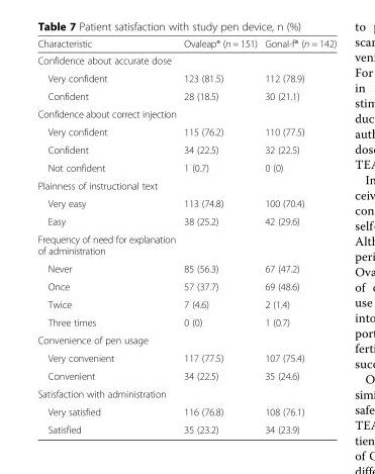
<table><thead><tr><td>Characteristic</td><td>Ovaleap® (n = 151)</td><td>Gonal-f® (n = 142)</td></tr></thead><tbody><tr><td colspan="3">Confidence about accurate dose</td></tr><tr><td>Very confident</td><td>123 (81.5)</td><td>112 (78.9)</td></tr><tr><td>Confident</td><td>28 (18.5)</td><td>30 (21.1)</td></tr><tr><td colspan="3">Confidence about correct injection</td></tr><tr><td>Very confident</td><td>115 (76.2)</td><td>110 (77.5)</td></tr><tr><td>Confident</td><td>34 (22.5)</td><td>32 (22.5)</td></tr><tr><td>Not confident</td><td>1 (0.7)</td><td>0 (0)</td></tr><tr><td colspan="3">Plainness of instructional text</td></tr><tr><td>Very easy</td><td>113 (74.8)</td><td>100 (70.4)</td></tr><tr><td>Easy</td><td>38 (25.2)</td><td>42 (29.6)</td></tr><tr><td colspan="3">Frequency of need for explanation of administration</td></tr><tr><td>Never</td><td>85 (56.3)</td><td>67 (47.2)</td></tr><tr><td>Once</td><td>57 (37.7)</td><td>69 (48.6)</td></tr><tr><td>Twice</td><td>7 (4.6)</td><td>2 (1.4)</td></tr><tr><td>Three times</td><td>0 (0)</td><td>1 (0.7)</td></tr><tr><td colspan="3">Convenience of pen usage</td></tr><tr><td>Very convenient</td><td>117 (77.5)</td><td>107 (75.4)</td></tr><tr><td>Convenient</td><td>34 (22.5)</td><td>35 (24.6)</td></tr><tr><td colspan="3">Satisfaction with administration</td></tr><tr><td>Very satisfied</td><td>116 (76.8)</td><td>108 (76.1)</td></tr><tr><td>Satisfied</td><td>35 (23.2)</td><td>34 (23.9)</td></tr></tbody></table>